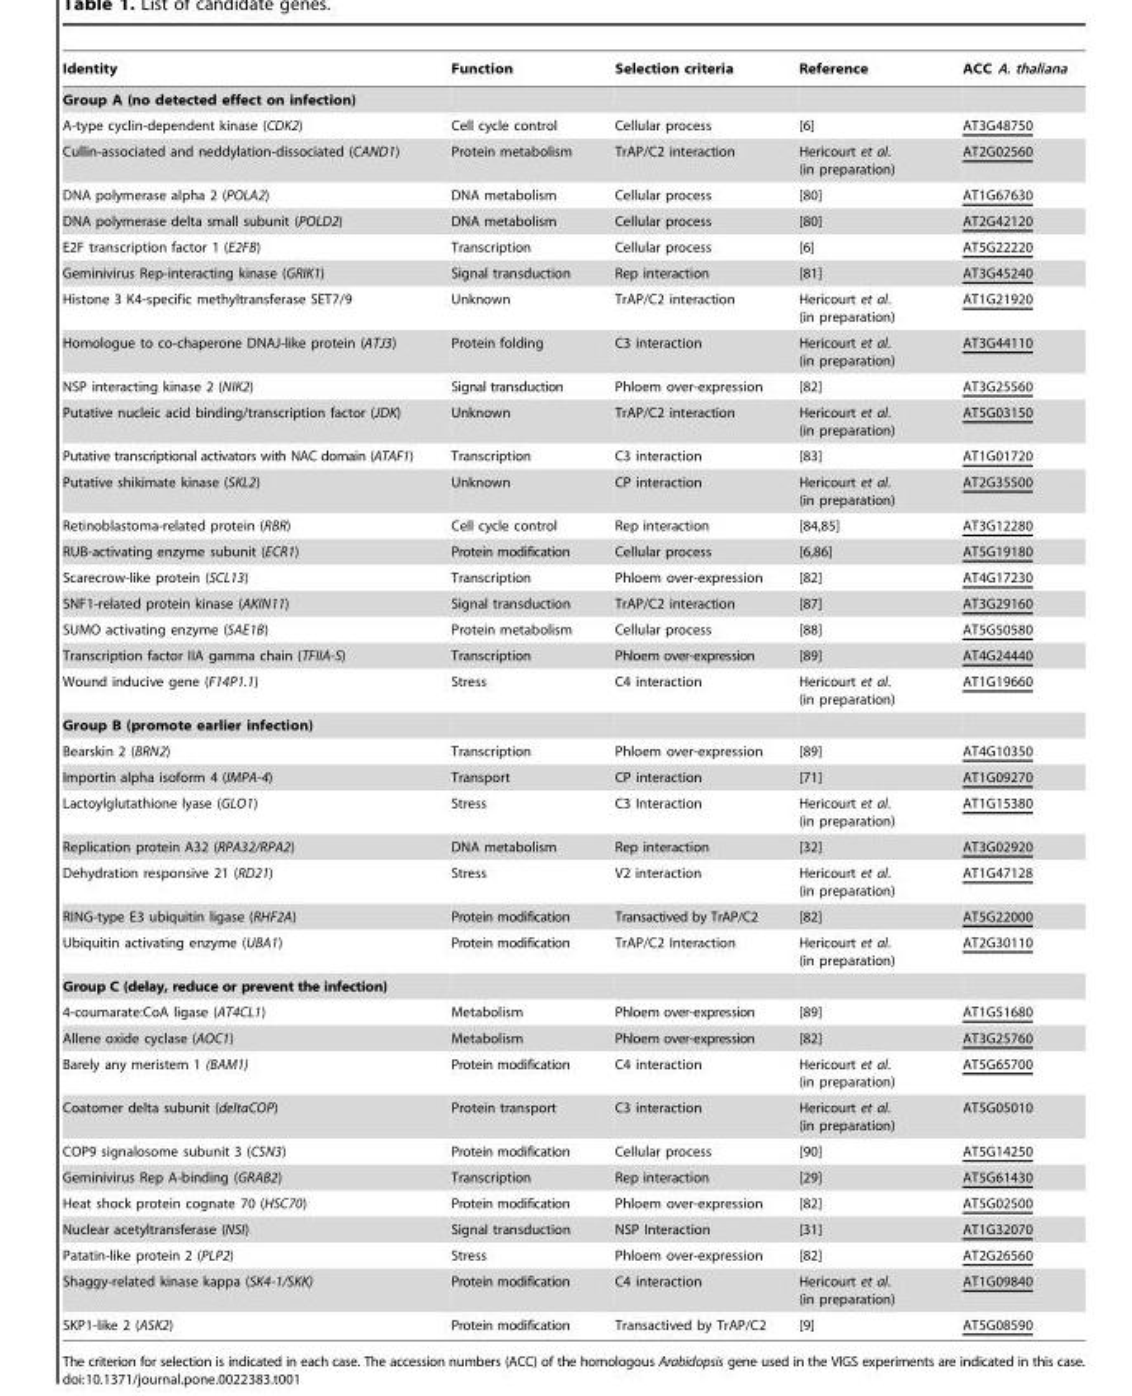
<table><thead><tr><td>Identity</td><td>Function</td><td>Selection criteria</td><td>Reference</td><td>ACC A. thaliana</td></tr></thead><tbody><tr><td colspan="5">Group A (no detected effect on infection)</td></tr><tr><td>A-type cyclin-dependent kinase (CDK2)</td><td>Cell cycle control</td><td>Cellular process</td><td>[6]</td><td>AT3G48750</td></tr><tr><td>Cullin-associated and neddylation-dissociated (CAND1)</td><td>Protein metabolism</td><td>TrAP/C2 interaction</td><td>Hericourt et al. (in preparation)</td><td>AT2G02560</td></tr><tr><td>DNA polymerase alpha 2 (POLA2)</td><td>DNA metabolism</td><td>Cellular process</td><td>[80]</td><td>AT1G67630</td></tr><tr><td>DNA polymerase delta small subunit (POLD2)</td><td>DNA metabolism</td><td>Cellular process</td><td>[80]</td><td>AT2G42120</td></tr><tr><td>E2F transcription factor 1 (E2FB)</td><td>Transcription</td><td>Cellular process</td><td>[6]</td><td>AT5G22220</td></tr><tr><td>Geminivirus Rep-interacting kinase (GRIK1)</td><td>Signal transduction</td><td>Rep interaction</td><td>[81]</td><td>AT3G45240</td></tr><tr><td>Histone 3 K4-specific methyltransferase SET7/9</td><td>Unknown</td><td>TrAP/C2 interaction</td><td>Hericourt et al. (in preparation)</td><td>AT1G21920</td></tr><tr><td>Homologue to co-chaperone DNAJ-like protein (ATJ3)</td><td>Protein folding</td><td>C3 interaction</td><td>Hericourt et al. (in preparation)</td><td>AT3G44110</td></tr><tr><td>NSP interacting kinase 2 (NIK2)</td><td>Signal transduction</td><td>Phloem over-expression</td><td>[82]</td><td>AT3G25560</td></tr><tr><td>Putative nucleic acid binding/transcription factor (JDK)</td><td>Unknown</td><td>TrAP/C2 interaction</td><td>Hericourt et al. (in preparation)</td><td>AT5G03150</td></tr><tr><td>Putative transcriptional activators with NAC domain (ATAF1)</td><td>Transcription</td><td>C3 interaction</td><td>[83]</td><td>AT1G01720</td></tr><tr><td>Putative shikimate kinase (SKL2)</td><td>Unknown</td><td>CP interaction</td><td>Hericourt et al. (in preparation)</td><td>AT2G35500</td></tr><tr><td>Retinoblastoma-related protein (RBR)</td><td>Cell cycle control</td><td>Rep interaction</td><td>[84,85]</td><td>AT3G12280</td></tr><tr><td>RUB-activating enzyme subunit (ECR1)</td><td>Protein modification</td><td>Cellular process</td><td>[6,86]</td><td>AT5G19180</td></tr><tr><td>Scarecrow-like protein (SCL13)</td><td>Transcription</td><td>Phloem over-expression</td><td>[82]</td><td>AT4G17230</td></tr><tr><td>SNF1-related protein kinase (AKIN11)</td><td>Signal transduction</td><td>TrAP/C2 interaction</td><td>[87]</td><td>AT3G29160</td></tr><tr><td>SUMO activating enzyme (SAE1B)</td><td>Protein metabolism</td><td>Cellular process</td><td>[88]</td><td>AT5G50580</td></tr><tr><td>Transcription factor IIA gamma chain (TFIIA-S)</td><td>Transcription</td><td>Phloem over-expression</td><td>[89]</td><td>AT4G24440</td></tr><tr><td>Wound inducive gene (F14P1.1)</td><td>Stress</td><td>C4 interaction</td><td>Hericourt et al. (in preparation)</td><td>AT1G19660</td></tr><tr><td colspan="5">Group B (promote earlier infection)</td></tr><tr><td>Bearskin 2 (BRN2)</td><td>Transcription</td><td>Phloem over-expression</td><td>[89]</td><td>AT4G10350</td></tr><tr><td>Importin alpha isoform 4 (IMPA-4)</td><td>Transport</td><td>CP interaction</td><td>[71]</td><td>AT1G09270</td></tr><tr><td>Lactoylglutathione lyase (GLO1)</td><td>Stress</td><td>C3 Interaction</td><td>Hericourt et al. (in preparation)</td><td>AT1G15380</td></tr><tr><td>Replication protein A32 (RPA32/RPA2)</td><td>DNA metabolism</td><td>Rep interaction</td><td>[32]</td><td>AT3G02920</td></tr><tr><td>Dehydration responsive 21 (RD21)</td><td>Stress</td><td>V2 interaction</td><td>Hericourt et al. (in preparation)</td><td>AT1G47128</td></tr><tr><td>RING-type E3 ubiquitin ligase (RHF2A)</td><td>Protein modification</td><td>Transactived by TrAP/C2</td><td>[82]</td><td>AT5G22000</td></tr><tr><td>Ubiquitin activating enzyme (UBA1)</td><td>Protein modification</td><td>TrAP/C2 Interaction</td><td>Hericourt et al. (in preparation)</td><td>AT2G30110</td></tr><tr><td colspan="5">Group C (delay, reduce or prevent the infection)</td></tr><tr><td>4-coumarate:CoA ligase (AT4CL1)</td><td>Metabolism</td><td>Phloem over-expression</td><td>[89]</td><td>AT1G51680</td></tr><tr><td>Allene oxide cyclase (AOC1)</td><td>Metabolism</td><td>Phloem over-expression</td><td>[82]</td><td>AT3G25760</td></tr><tr><td>Barely any meristem 1 (BAM1)</td><td>Protein modification</td><td>C4 interaction</td><td>Hericourt et al. (in preparation)</td><td>AT5G65700</td></tr><tr><td>Coatomer delta subunit (deltaCOP)</td><td>Protein transport</td><td>C3 interaction</td><td>Hericourt et al. (in preparation)</td><td>AT5G05010</td></tr><tr><td>COP9 signalosome subunit 3 (CSN3)</td><td>Protein modification</td><td>Cellular process</td><td>[90]</td><td>AT5G14250</td></tr><tr><td>Geminivirus Rep A-binding (GRAB2)</td><td>Transcription</td><td>Rep interaction</td><td>[29]</td><td>AT5G61430</td></tr><tr><td>Heat shock protein cognate 70 (HSC70)</td><td>Protein modification</td><td>Phloem over-expression</td><td>[82]</td><td>AT5G02500</td></tr><tr><td>Nuclear acetyltransferase (NSI)</td><td>Signal transduction</td><td>NSP Interaction</td><td>[31]</td><td>AT1G32070</td></tr><tr><td>Patatin-like protein 2 (PLP2)</td><td>Stress</td><td>Phloem over-expression</td><td>[82]</td><td>AT2G26560</td></tr><tr><td>Shaggy-related kinase kappa (SK4-1/SKK)</td><td>Protein modification</td><td>C4 interaction</td><td>Hericourt et al. (in preparation)</td><td>AT1G09840</td></tr><tr><td>SKP1-like 2 (ASK2)</td><td>Protein modification</td><td>Transactived by TrAP/C2</td><td>[9]</td><td>AT5G08590</td></tr></tbody></table>